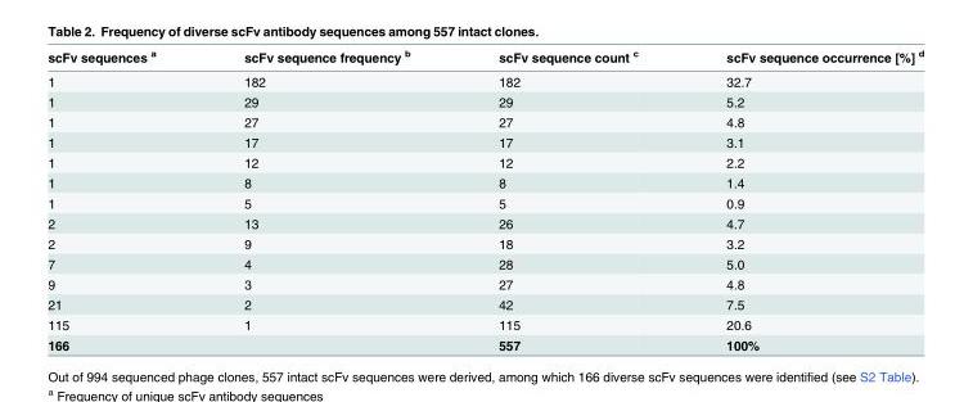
<table><thead><tr><td>scFv sequences <sup>a</sup></td><td>scFv sequence frequency <sup>b</sup></td><td>scFv sequence count <sup>c</sup></td><td>scFv sequence occurrence [%] <sup>d</sup></td></tr></thead><tbody><tr><td>1</td><td>182</td><td>182</td><td>32.7</td></tr><tr><td>1</td><td>29</td><td>29</td><td>5.2</td></tr><tr><td>1</td><td>27</td><td>27</td><td>4.8</td></tr><tr><td>1</td><td>17</td><td>17</td><td>3.1</td></tr><tr><td>1</td><td>12</td><td>12</td><td>2.2</td></tr><tr><td>1</td><td>8</td><td>8</td><td>1.4</td></tr><tr><td>1</td><td>5</td><td>5</td><td>0.9</td></tr><tr><td>2</td><td>13</td><td>26</td><td>4.7</td></tr><tr><td>2</td><td>9</td><td>18</td><td>3.2</td></tr><tr><td>7</td><td>4</td><td>28</td><td>5.0</td></tr><tr><td>9</td><td>3</td><td>27</td><td>4.8</td></tr><tr><td>21</td><td>2</td><td>42</td><td>7.5</td></tr><tr><td>115</td><td>1</td><td>115</td><td>20.6</td></tr><tr><td>166</td><td></td><td>557</td><td>100%</td></tr></tbody></table>